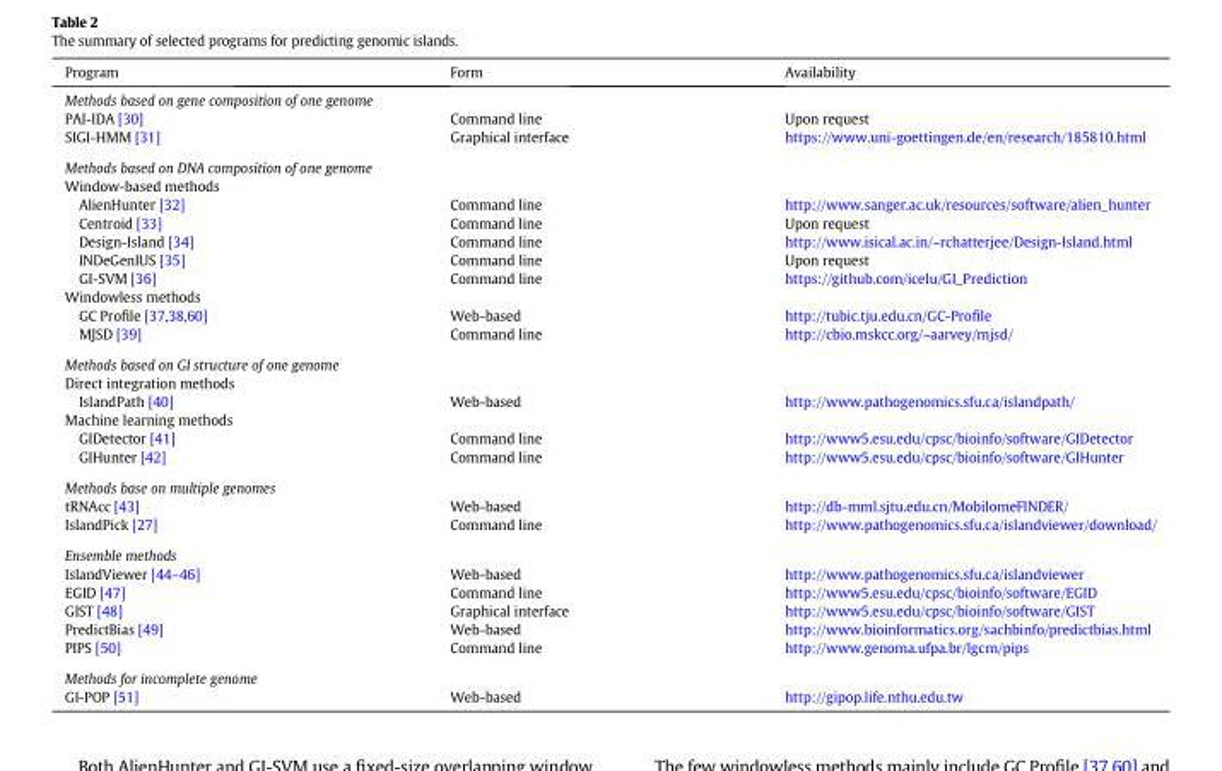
<table><thead><tr><td>Program</td><td>Form</td><td>Availability</td></tr></thead><tbody><tr><td colspan="3">Methods based on gene composition of one genome</td></tr><tr><td>PAI-IDA [30]</td><td>Command line</td><td>Upon request</td></tr><tr><td>SIGI-HMM [31]</td><td>Graphical interface</td><td>https://www.uni-goettingen.de/en/research/185810.html</td></tr><tr><td colspan="3">Methods based on DNA composition of one genome</td></tr><tr><td colspan="3">Window-based methods</td></tr><tr><td>AlienHunter [32]</td><td>Command line</td><td>http://www.sanger.ac.uk/resources/software/alien_hunter</td></tr><tr><td>Centroid [33]</td><td>Command line</td><td>Upon request</td></tr><tr><td>Design-Island [34]</td><td>Command line</td><td>http://www.isical.ac.in/~rchatterjee/Design-Island.html</td></tr><tr><td>INDeGenIUS [35]</td><td>Command line</td><td>Upon request</td></tr><tr><td>GI-SVM [36]</td><td>Command line</td><td>https://github.com/icelu/GI_Prediction</td></tr><tr><td colspan="3">Windowless methods</td></tr><tr><td>GC Profile [37,38,60]</td><td>Web-based</td><td>http://tubic.tju.edu.cn/GC-Profile</td></tr><tr><td>MJSD [39]</td><td>Command line</td><td>http://cbio.mskcc.org/~aarvey/mjsd/</td></tr><tr><td colspan="3">Methods based on GI structure of one genome</td></tr><tr><td colspan="3">Direct integration methods</td></tr><tr><td>IslandPath [40]</td><td>Web-based</td><td>http://www.pathogenomics.sfu.ca/islandpath/</td></tr><tr><td colspan="3">Machine learning methods</td></tr><tr><td>GIDetector [41]</td><td>Command line</td><td>http://www5.esu.edu/cpsc/bioinfo/software/GIDetector</td></tr><tr><td>GIHunter [42]</td><td>Command line</td><td>http://www5.esu.edu/cpsc/bioinfo/software/GIHunter</td></tr><tr><td colspan="3">Methods base on multiple genomes</td></tr><tr><td>tRNAcc [43]</td><td>Web-based</td><td>http://db-mml.sjtu.edu.cn/MobilomeFINDER/</td></tr><tr><td>IslandPick [27]</td><td>Command line</td><td>http://www.pathogenomics.sfu.ca/islandviewer/download/</td></tr><tr><td colspan="3">Ensemble methods</td></tr><tr><td>IslandViewer [44–46]</td><td>Web-based</td><td>http://www.pathogenomics.sfu.ca/islandviewer</td></tr><tr><td>EGID [47]</td><td>Command line</td><td>http://www5.esu.edu/cpsc/bioinfo/software/EGID</td></tr><tr><td>GIST [48]</td><td>Graphical interface</td><td>http://www5.esu.edu/cpsc/bioinfo/software/GIST</td></tr><tr><td>PredictBias [49]</td><td>Web-based</td><td>http://www.bioinformatics.org/sachbinfo/predictbias.html</td></tr><tr><td>PIPS [50]</td><td>Command line</td><td>http://www.genoma.ufpa.br/lgcm/pips</td></tr><tr><td colspan="3">Methods for incomplete genome</td></tr><tr><td>GI-POP [51]</td><td>Web-based</td><td>http://gipop.life.nthu.edu.tw</td></tr></tbody></table>